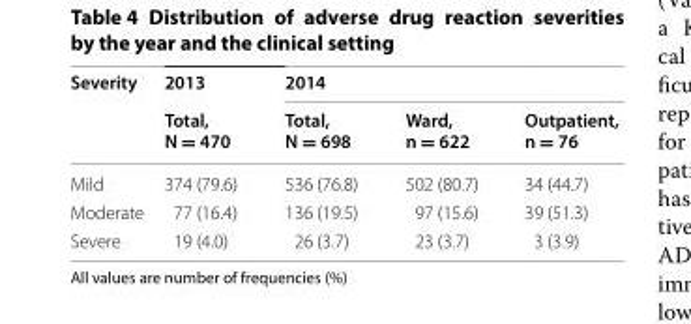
<table><thead><tr><td rowspan="2">Severity</td><td rowspan="2">2013 Total, N = 470</td><td colspan="3">2014</td></tr><tr><td>Total, N = 698</td><td>Ward, n = 622</td><td>Outpatient, n = 76</td></tr></thead><tbody><tr><td>Mild</td><td>374 (79.6)</td><td>536 (76.8)</td><td>502 (80.7)</td><td>34 (44.7)</td></tr><tr><td>Moderate</td><td>77 (16.4)</td><td>136 (19.5)</td><td>97 (15.6)</td><td>39 (51.3)</td></tr><tr><td>Severe</td><td>19 (4.0)</td><td>26 (3.7)</td><td>23 (3.7)</td><td>3 (3.9)</td></tr></tbody></table>